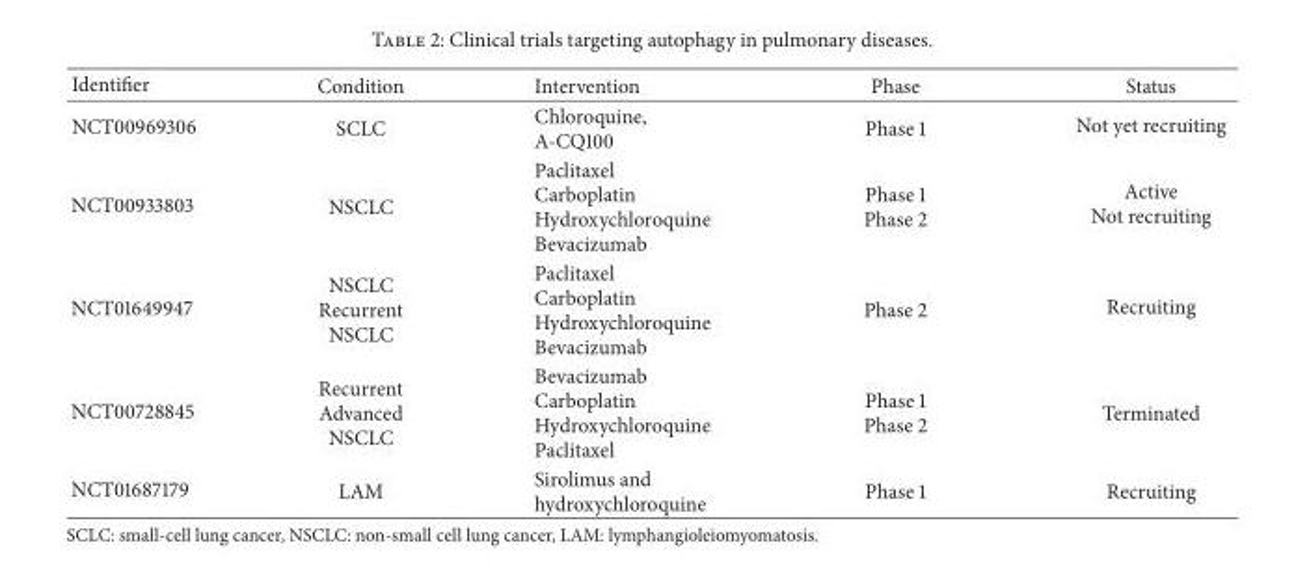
<table><thead><tr><td>Identifier</td><td>Condition</td><td>Intervention</td><td>Phase</td><td>Status</td></tr></thead><tbody><tr><td>NCT00969306</td><td>SCLC</td><td>Chloroquine, A-CQ100</td><td>Phase 1</td><td>Not yet recruiting</td></tr><tr><td>NCT00933803</td><td>NSCLC</td><td>Paclitaxel Carboplatin Hydroxychloroquine Bevacizumab</td><td>Phase 1 Phase 2</td><td>Active Not recruiting</td></tr><tr><td>NCT01649947</td><td>NSCLC Recurrent NSCLC</td><td>Paclitaxel Carboplatin Hydroxychloroquine Bevacizumab</td><td>Phase 2</td><td>Recruiting</td></tr><tr><td>NCT00728845</td><td>Recurrent Advanced NSCLC</td><td>Bevacizumab Carboplatin Hydroxychloroquine Paclitaxel</td><td>Phase 1 Phase 2</td><td>Terminated</td></tr><tr><td>NCT01687179</td><td>LAM</td><td>Sirolimus and hydroxychloroquine</td><td>Phase 1</td><td>Recruiting</td></tr></tbody></table>